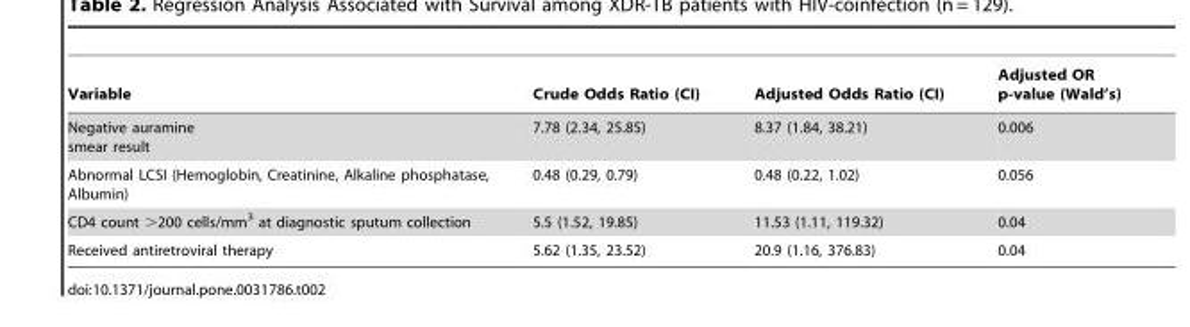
<table><thead><tr><td>Variable</td><td>Crude Odds Ratio (CI)</td><td>Adjusted Odds Ratio (CI)</td><td>Adjusted OR p-value (Wald’s)</td></tr></thead><tbody><tr><td>Negative auramine smear result</td><td>7.78 (2.34, 25.85)</td><td>8.37 (1.84, 38.21)</td><td>0.006</td></tr><tr><td>Abnormal LCSI (Hemoglobin, Creatinine, Alkaline phosphatase, Albumin)</td><td>0.48 (0.29, 0.79)</td><td>0.48 (0.22, 1.02)</td><td>0.056</td></tr><tr><td>CD4 count &gt;200 cells/mm<sup>3</sup> at diagnostic sputum collection</td><td>5.5 (1.52, 19.85)</td><td>11.53 (1.11, 119.32)</td><td>0.04</td></tr><tr><td>Received antiretroviral therapy</td><td>5.62 (1.35, 23.52)</td><td>20.9 (1.16, 376.83)</td><td>0.04</td></tr></tbody></table>